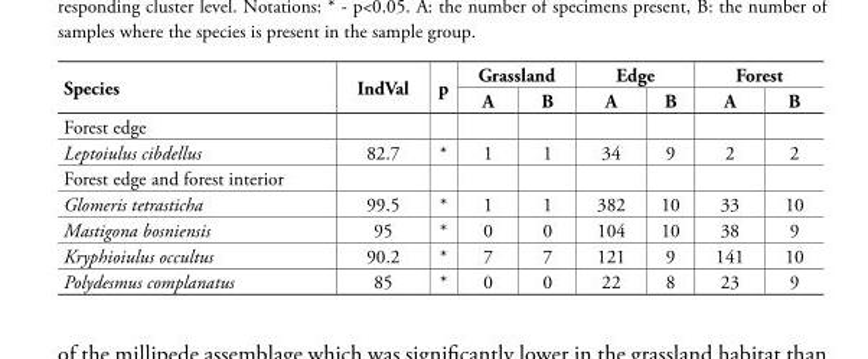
<table><thead><tr><td rowspan="2">Species</td><td rowspan="2">IndVal</td><td rowspan="2">p</td><td colspan="2">Grassland</td><td colspan="2">Edge</td><td colspan="2">Forest</td></tr><tr><td>A</td><td>B</td><td>A</td><td>B</td><td>A</td><td>B</td></tr></thead><tbody><tr><td colspan="9">Forest edge</td></tr><tr><td>Leptoiulus cibdellus</td><td>82.7</td><td>*</td><td>1</td><td>1</td><td>34</td><td>9</td><td>2</td><td>2</td></tr><tr><td colspan="9">Forest edge and forest interior</td></tr><tr><td>Glomeris tetrasticha</td><td>99.5</td><td>*</td><td>1</td><td>1</td><td>382</td><td>10</td><td>33</td><td>10</td></tr><tr><td>Mastigona bosniensis</td><td>95</td><td>*</td><td>0</td><td>0</td><td>104</td><td>10</td><td>38</td><td>9</td></tr><tr><td>Kryphioiulus occultus</td><td>90.2</td><td>*</td><td>7</td><td>7</td><td>121</td><td>9</td><td>141</td><td>10</td></tr><tr><td>Polydesmus complanatus</td><td>85</td><td>*</td><td>0</td><td>0</td><td>22</td><td>8</td><td>23</td><td>9</td></tr></tbody></table>